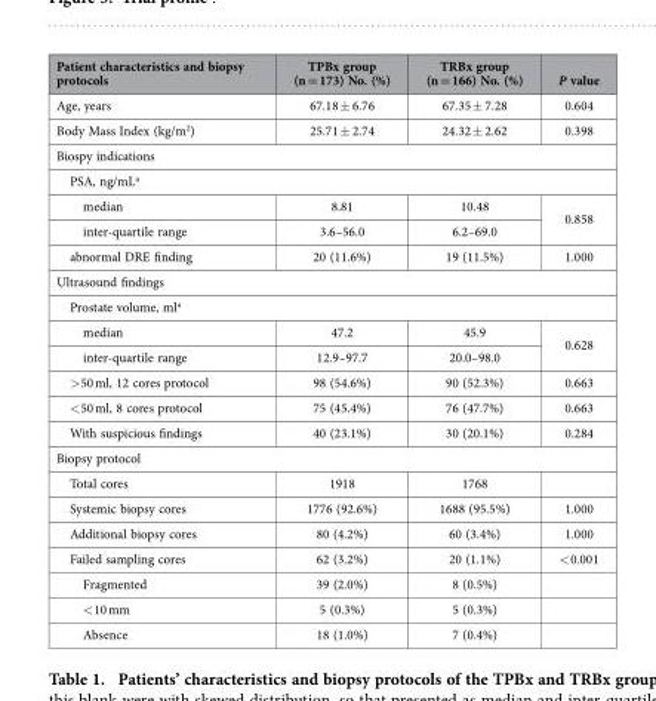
<table><thead><tr><td>Patient characteristics and biopsy protocols</td><td>TPBx group (n = 173) No. (%)</td><td>TRBx group (n = 166) No. (%)</td><td>P value</td></tr></thead><tbody><tr><td>Age, years</td><td>67.18 ± 6.76</td><td>67.35 ± 7.28</td><td>0.604</td></tr><tr><td>Body Mass Index (kg/m<sup>2</sup>)</td><td>25.71 ± 2.74</td><td>24.32 ± 2.62</td><td>0.398</td></tr><tr><td colspan="4">Biospy indications</td></tr><tr><td colspan="4">PSA, ng/mL<sup>a</sup></td></tr><tr><td>median</td><td>8.81</td><td>10.48</td><td rowspan="2">0.858</td></tr><tr><td>inter-quartile range</td><td>3.6–56.0</td><td>6.2–69.0</td></tr><tr><td>abnormal DRE finding</td><td>20 (11.6%)</td><td>19 (11.5%)</td><td>1.000</td></tr><tr><td colspan="4">Ultrasound findings</td></tr><tr><td colspan="4">Prostate volume, ml<sup>a</sup></td></tr><tr><td>median</td><td>47.2</td><td>45.9</td><td rowspan="2">0.628</td></tr><tr><td>inter-quartile range</td><td>12.9–97.7</td><td>20.0–98.0</td></tr><tr><td>&gt; 50 ml, 12 cores protocol</td><td>98 (54.6%)</td><td>90 (52.3%)</td><td>0.663</td></tr><tr><td>&lt; 50 ml, 8 cores protocol</td><td>75 (45.4%)</td><td>76 (47.7%)</td><td>0.663</td></tr><tr><td>With suspicious findings</td><td>40 (23.1%)</td><td>30 (20.1%)</td><td>0.284</td></tr><tr><td colspan="4">Biopsy protocol</td></tr><tr><td>Total cores</td><td>1918</td><td>1768</td><td></td></tr><tr><td>Systemic biopsy cores</td><td>1776 (92.6%)</td><td>1688 (95.5%)</td><td>1.000</td></tr><tr><td>Additional biopsy cores</td><td>80 (4.2%)</td><td>60 (3.4%)</td><td>1.000</td></tr><tr><td>Failed sampling cores</td><td>62 (3.2%)</td><td>20 (1.1%)</td><td>&lt; 0.001</td></tr><tr><td>Fragmented</td><td>39 (2.0%)</td><td>8 (0.5%)</td><td></td></tr><tr><td>&lt; 10 mm</td><td>5 (0.3%)</td><td>5 (0.3%)</td><td></td></tr><tr><td>Absence</td><td>18 (1.0%)</td><td>7 (0.4%)</td><td></td></tr></tbody></table>